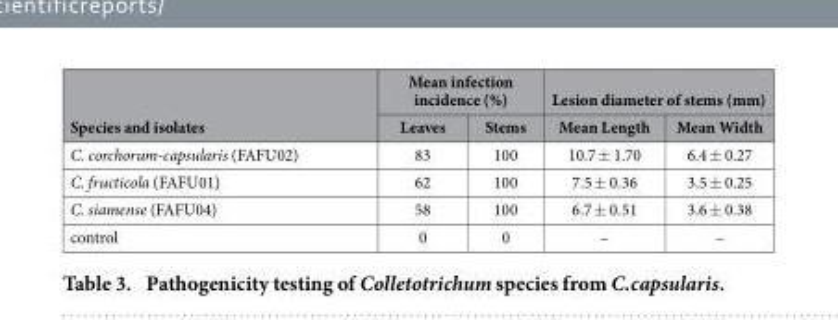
<table><thead><tr><td rowspan="2">Species and isolates</td><td colspan="2">Mean infection incidence (%)</td><td colspan="2">Lesion diameter of stems (mm)</td></tr><tr><td>Leaves</td><td>Stems</td><td>Mean Length</td><td>Mean Width</td></tr></thead><tbody><tr><td>C. corchorum-capsularis (FAFU02)</td><td>83</td><td>100</td><td>10.7 ± 1.70</td><td>6.4 ± 0.27</td></tr><tr><td>C. fructicola (FAFU01)</td><td>62</td><td>100</td><td>7.5 ± 0.36</td><td>3.5 ± 0.25</td></tr><tr><td>C. siamense (FAFU04)</td><td>58</td><td>100</td><td>6.7 ± 0.51</td><td>3.6 ± 0.38</td></tr><tr><td>control</td><td>0</td><td>0</td><td>–</td><td>–</td></tr></tbody></table>